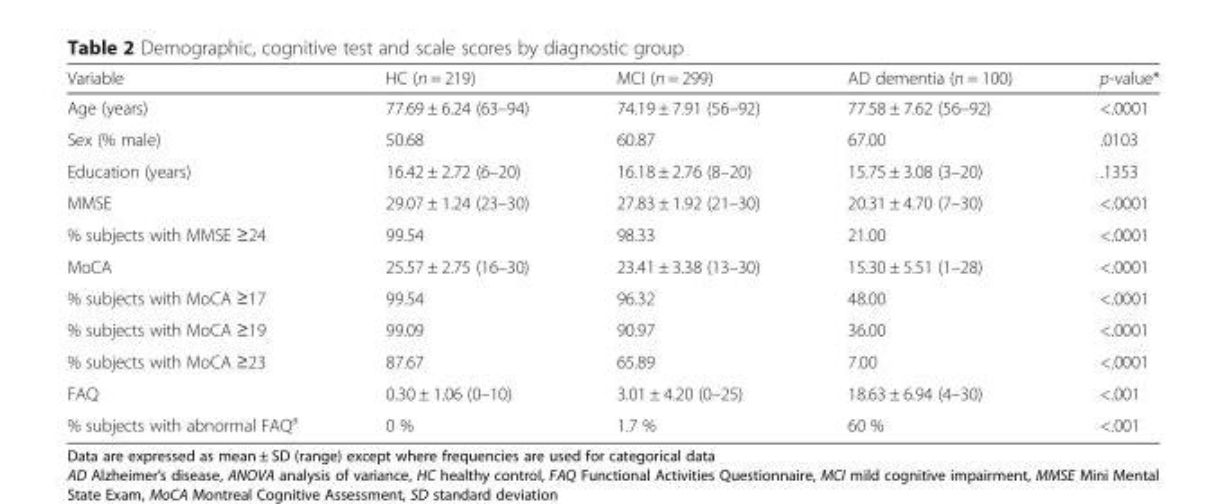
<table><thead><tr><td>Variable</td><td>HC (n = 219)</td><td>MCI (n = 299)</td><td>AD dementia (n = 100)</td><td>p-value*</td></tr></thead><tbody><tr><td>Age (years)</td><td>77.69 ± 6.24 (63–94)</td><td>74.19 ± 7.91 (56–92)</td><td>77.58 ± 7.62 (56–92)</td><td>&lt;.0001</td></tr><tr><td>Sex (% male)</td><td>50.68</td><td>60.87</td><td>67.00</td><td>.0103</td></tr><tr><td>Education (years)</td><td>16.42 ± 2.72 (6–20)</td><td>16.18 ± 2.76 (8–20)</td><td>15.75 ± 3.08 (3–20)</td><td>.1353</td></tr><tr><td>MMSE</td><td>29.07 ± 1.24 (23–30)</td><td>27.83 ± 1.92 (21–30)</td><td>20.31 ± 4.70 (7–30)</td><td>&lt;.0001</td></tr><tr><td>% subjects with MMSE ≥24</td><td>99.54</td><td>98.33</td><td>21.00</td><td>&lt;.0001</td></tr><tr><td>MoCA</td><td>25.57 ± 2.75 (16–30)</td><td>23.41 ± 3.38 (13–30)</td><td>15.30 ± 5.51 (1–28)</td><td>&lt;.0001</td></tr><tr><td>% subjects with MoCA ≥17</td><td>99.54</td><td>96.32</td><td>48.00</td><td>&lt;.0001</td></tr><tr><td>% subjects with MoCA ≥19</td><td>99.09</td><td>90.97</td><td>36.00</td><td>&lt;.0001</td></tr><tr><td>% subjects with MoCA ≥23</td><td>87.67</td><td>65.89</td><td>7.00</td><td>&lt;.0001</td></tr><tr><td>FAQ</td><td>0.30 ± 1.06 (0–10)</td><td>3.01 ± 4.20 (0–25)</td><td>18.63 ± 6.94 (4–30)</td><td>&lt;.001</td></tr><tr><td>% subjects with abnormal FAQ<sup>a</sup></td><td>0 %</td><td>1.7 %</td><td>60 %</td><td>&lt;.001</td></tr></tbody></table>